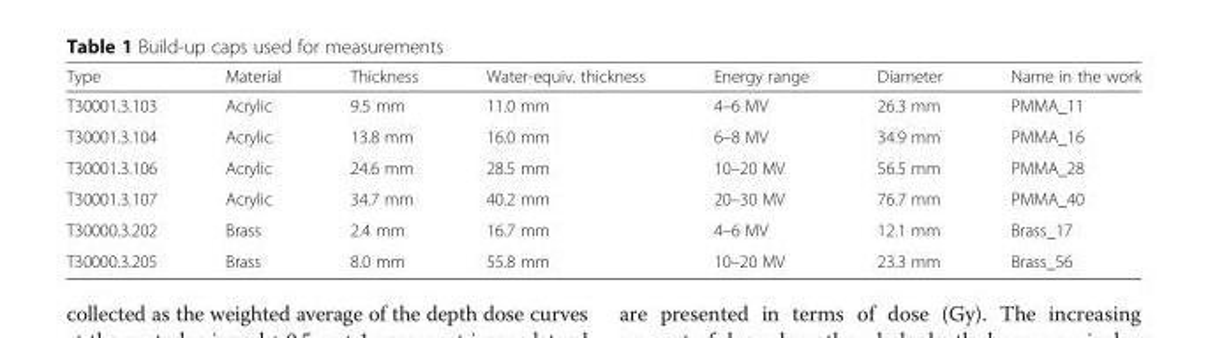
<table><thead><tr><td>Type</td><td>Material</td><td>Thickness</td><td>Water-equiv. thickness</td><td>Energy range</td><td>Diameter</td><td>Name in the work</td></tr></thead><tbody><tr><td>T30001.3.103</td><td>Acrylic</td><td>9.5 mm</td><td>11.0 mm</td><td>4–6 MV</td><td>26.3 mm</td><td>PMMA_11</td></tr><tr><td>T30001.3.104</td><td>Acrylic</td><td>13.8 mm</td><td>16.0 mm</td><td>6–8 MV</td><td>34.9 mm</td><td>PMMA_16</td></tr><tr><td>T30001.3.106</td><td>Acrylic</td><td>24.6 mm</td><td>28.5 mm</td><td>10–20 MV</td><td>56.5 mm</td><td>PMMA_28</td></tr><tr><td>T30001.3.107</td><td>Acrylic</td><td>34.7 mm</td><td>40.2 mm</td><td>20–30 MV</td><td>76.7 mm</td><td>PMMA_40</td></tr><tr><td>T30000.3.202</td><td>Brass</td><td>2.4 mm</td><td>16.7 mm</td><td>4–6 MV</td><td>12.1 mm</td><td>Brass_17</td></tr><tr><td>T30000.3.205</td><td>Brass</td><td>8.0 mm</td><td>55.8 mm</td><td>10–20 MV</td><td>23.3 mm</td><td>Brass_56</td></tr></tbody></table>